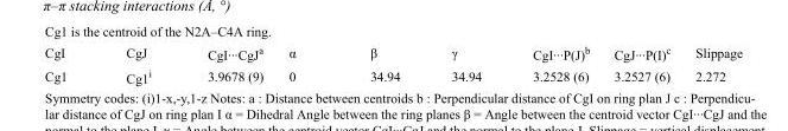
<table><tbody><tr><td>CgI</td><td>CgJ</td><td>CgI···CgJ<sup>a</sup></td><td>α</td><td>β</td><td>γ</td><td>CgI···P(J)<sup>b</sup></td><td>CgJ···P(I)<sup>c</sup></td><td>Slippage</td></tr><tr><td>Cg1</td><td>Cg1<sup>i</sup></td><td>3.9678 (9)</td><td>0</td><td>34.94</td><td>34.94</td><td>3.2528 (6)</td><td>3.2527 (6)</td><td>2.272</td></tr></tbody></table>